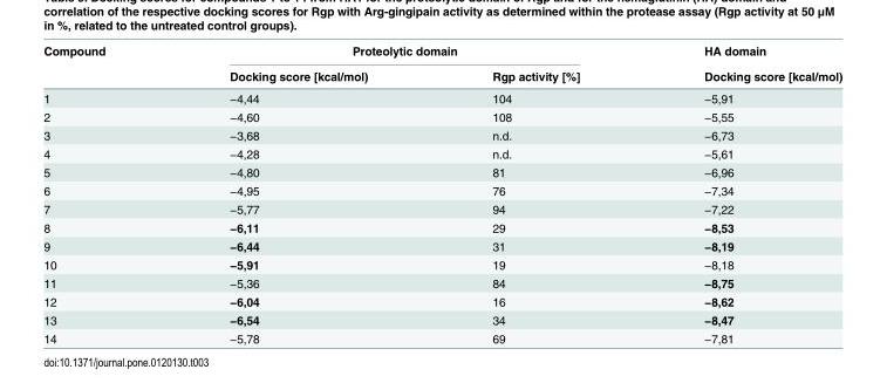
<table><thead><tr><td rowspan="2">Compound</td><td colspan="2">Proteolytic domain</td><td rowspan="2">HA domain Docking score [kcal/mol)</td></tr><tr><td>Docking score [kcal/mol)</td><td>Rgp activity [%]</td></tr></thead><tbody><tr><td>1</td><td>−4,44</td><td>104</td><td>−5,91</td></tr><tr><td>2</td><td>−4,60</td><td>108</td><td>−5,55</td></tr><tr><td>3</td><td>−3,68</td><td>n.d.</td><td>−6,73</td></tr><tr><td>4</td><td>−4,28</td><td>n.d.</td><td>−5,61</td></tr><tr><td>5</td><td>−4,80</td><td>81</td><td>−6,96</td></tr><tr><td>6</td><td>−4,95</td><td>76</td><td>−7,34</td></tr><tr><td>7</td><td>−5,77</td><td>94</td><td>−7,22</td></tr><tr><td>8</td><td>−6,11</td><td>29</td><td>−8,53</td></tr><tr><td>9</td><td>−6,44</td><td>31</td><td>−8,19</td></tr><tr><td>10</td><td>−5,91</td><td>19</td><td>−8,18</td></tr><tr><td>11</td><td>−5,36</td><td>84</td><td>−8,75</td></tr><tr><td>12</td><td>−6,04</td><td>16</td><td>−8,62</td></tr><tr><td>13</td><td>−6,54</td><td>34</td><td>−8,47</td></tr><tr><td>14</td><td>−5,78</td><td>69</td><td>−7,81</td></tr></tbody></table>